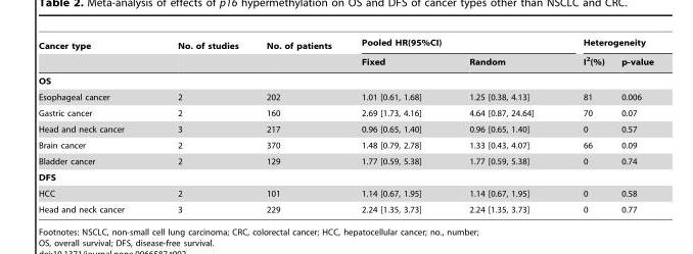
<table><thead><tr><td rowspan="2">Cancer type</td><td rowspan="2">No. of studies</td><td rowspan="2">No. of patients</td><td colspan="2">Pooled HR(95%CI)</td><td colspan="2">Heterogeneity</td></tr><tr><td>Fixed</td><td>Random</td><td>I<sup>2</sup>(%)</td><td>p-value</td></tr></thead><tbody><tr><td colspan="7">OS</td></tr><tr><td>Esophageal cancer</td><td>2</td><td>202</td><td>1.01 [0.61, 1.68]</td><td>1.25 [0.38, 4.13]</td><td>81</td><td>0.006</td></tr><tr><td>Gastric cancer</td><td>2</td><td>160</td><td>2.69 [1.73, 4.16]</td><td>4.64 [0.87, 24.64]</td><td>70</td><td>0.07</td></tr><tr><td>Head and neck cancer</td><td>3</td><td>217</td><td>0.96 [0.65, 1.40]</td><td>0.96 [0.65, 1.40]</td><td>0</td><td>0.57</td></tr><tr><td>Brain cancer</td><td>2</td><td>370</td><td>1.48 [0.79, 2.78]</td><td>1.33 [0.43, 4.07]</td><td>66</td><td>0.09</td></tr><tr><td>Bladder cancer</td><td>2</td><td>129</td><td>1.77 [0.59, 5.38]</td><td>1.77 [0.59, 5.38]</td><td>0</td><td>0.74</td></tr><tr><td colspan="7">DFS</td></tr><tr><td>HCC</td><td>2</td><td>101</td><td>1.14 [0.67, 1.95]</td><td>1.14 [0.67, 1.95]</td><td>0</td><td>0.58</td></tr><tr><td>Head and neck cancer</td><td>3</td><td>229</td><td>2.24 [1.35, 3.73]</td><td>2.24 [1.35, 3.73]</td><td>0</td><td>0.77</td></tr></tbody></table>